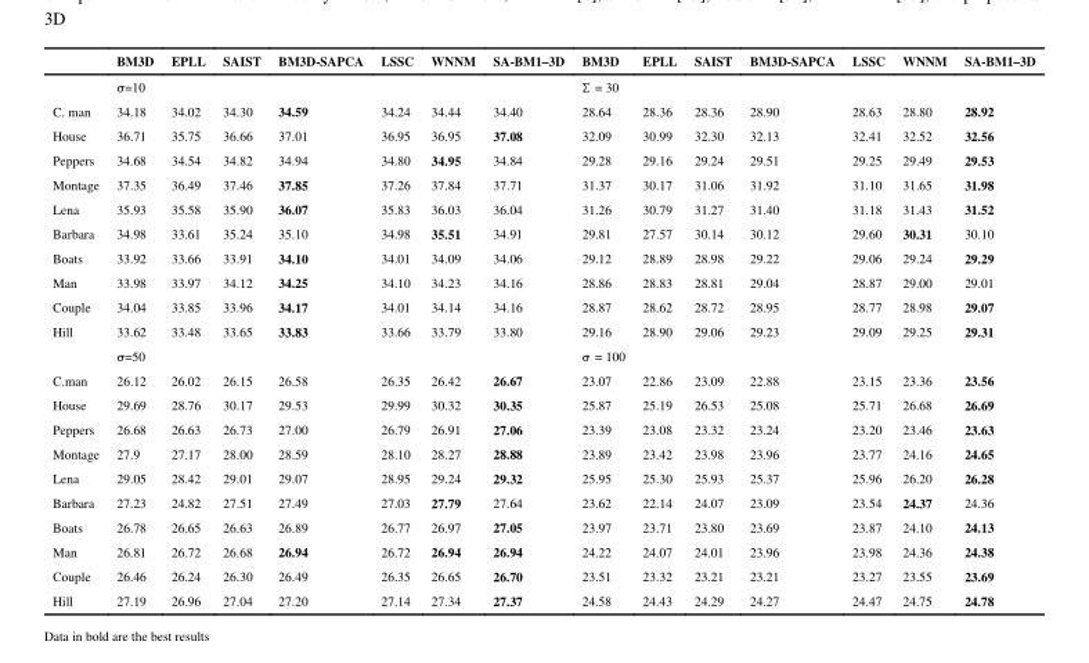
<table><thead><tr><td></td><td>BM3D</td><td>EPLL</td><td>SAIST</td><td>BM3D-SAPCA</td><td>LSSC</td><td>WNNM</td><td>SA-BM1–3D</td><td>BM3D</td><td>EPLL</td><td>SAIST</td><td>BM3D-SAPCA</td><td>LSSC</td><td>WNNM</td><td>SA-BM1–3D</td></tr></thead><tbody><tr><td></td><td>σ=10</td><td></td><td></td><td></td><td></td><td></td><td></td><td>Σ = 30</td><td></td><td></td><td></td><td></td><td></td><td></td></tr><tr><td>C. man</td><td>34.18</td><td>34.02</td><td>34.30</td><td>34.59</td><td>34.24</td><td>34.44</td><td>34.40</td><td>28.64</td><td>28.36</td><td>28.36</td><td>28.90</td><td>28.63</td><td>28.80</td><td>28.92</td></tr><tr><td>House</td><td>36.71</td><td>35.75</td><td>36.66</td><td>37.01</td><td>36.95</td><td>36.95</td><td>37.08</td><td>32.09</td><td>30.99</td><td>32.30</td><td>32.13</td><td>32.41</td><td>32.52</td><td>32.56</td></tr><tr><td>Peppers</td><td>34.68</td><td>34.54</td><td>34.82</td><td>34.94</td><td>34.80</td><td>34.95</td><td>34.84</td><td>29.28</td><td>29.16</td><td>29.24</td><td>29.51</td><td>29.25</td><td>29.49</td><td>29.53</td></tr><tr><td>Montage</td><td>37.35</td><td>36.49</td><td>37.46</td><td>37.85</td><td>37.26</td><td>37.84</td><td>37.71</td><td>31.37</td><td>30.17</td><td>31.06</td><td>31.92</td><td>31.10</td><td>31.65</td><td>31.98</td></tr><tr><td>Lena</td><td>35.93</td><td>35.58</td><td>35.90</td><td>36.07</td><td>35.83</td><td>36.03</td><td>36.04</td><td>31.26</td><td>30.79</td><td>31.27</td><td>31.40</td><td>31.18</td><td>31.43</td><td>31.52</td></tr><tr><td>Barbara</td><td>34.98</td><td>33.61</td><td>35.24</td><td>35.10</td><td>34.98</td><td>35.51</td><td>34.91</td><td>29.81</td><td>27.57</td><td>30.14</td><td>30.12</td><td>29.60</td><td>30.31</td><td>30.10</td></tr><tr><td>Boats</td><td>33.92</td><td>33.66</td><td>33.91</td><td>34.10</td><td>34.01</td><td>34.09</td><td>34.06</td><td>29.12</td><td>28.89</td><td>28.98</td><td>29.22</td><td>29.06</td><td>29.24</td><td>29.29</td></tr><tr><td>Man</td><td>33.98</td><td>33.97</td><td>34.12</td><td>34.25</td><td>34.10</td><td>34.23</td><td>34.16</td><td>28.86</td><td>28.83</td><td>28.81</td><td>29.04</td><td>28.87</td><td>29.00</td><td>29.01</td></tr><tr><td>Couple</td><td>34.04</td><td>33.85</td><td>33.96</td><td>34.17</td><td>34.01</td><td>34.14</td><td>34.16</td><td>28.87</td><td>28.62</td><td>28.72</td><td>28.95</td><td>28.77</td><td>28.98</td><td>29.07</td></tr><tr><td rowspan="2">Hill</td><td>33.62</td><td>33.48</td><td>33.65</td><td>33.83</td><td>33.66</td><td>33.79</td><td>33.80</td><td>29.16</td><td>28.90</td><td>29.06</td><td>29.23</td><td>29.09</td><td>29.25</td><td>29.31</td></tr><tr><td>σ=50</td><td></td><td></td><td></td><td></td><td></td><td></td><td>σ = 100</td><td></td><td></td><td></td><td></td><td></td><td></td></tr><tr><td>C.man</td><td>26.12</td><td>26.02</td><td>26.15</td><td>26.58</td><td>26.35</td><td>26.42</td><td>26.67</td><td>23.07</td><td>22.86</td><td>23.09</td><td>22.88</td><td>23.15</td><td>23.36</td><td>23.56</td></tr><tr><td>House</td><td>29.69</td><td>28.76</td><td>30.17</td><td>29.53</td><td>29.99</td><td>30.32</td><td>30.35</td><td>25.87</td><td>25.19</td><td>26.53</td><td>25.08</td><td>25.71</td><td>26.68</td><td>26.69</td></tr><tr><td>Peppers</td><td>26.68</td><td>26.63</td><td>26.73</td><td>27.00</td><td>26.79</td><td>26.91</td><td>27.06</td><td>23.39</td><td>23.08</td><td>23.32</td><td>23.24</td><td>23.20</td><td>23.46</td><td>23.63</td></tr><tr><td>Montage</td><td>27.9</td><td>27.17</td><td>28.00</td><td>28.59</td><td>28.10</td><td>28.27</td><td>28.88</td><td>23.89</td><td>23.42</td><td>23.98</td><td>23.96</td><td>23.77</td><td>24.16</td><td>24.65</td></tr><tr><td>Lena</td><td>29.05</td><td>28.42</td><td>29.01</td><td>29.07</td><td>28.95</td><td>29.24</td><td>29.32</td><td>25.95</td><td>25.30</td><td>25.93</td><td>25.37</td><td>25.96</td><td>26.20</td><td>26.28</td></tr><tr><td>Barbara</td><td>27.23</td><td>24.82</td><td>27.51</td><td>27.49</td><td>27.03</td><td>27.79</td><td>27.64</td><td>23.62</td><td>22.14</td><td>24.07</td><td>23.09</td><td>23.54</td><td>24.37</td><td>24.36</td></tr><tr><td>Boats</td><td>26.78</td><td>26.65</td><td>26.63</td><td>26.89</td><td>26.77</td><td>26.97</td><td>27.05</td><td>23.97</td><td>23.71</td><td>23.80</td><td>23.69</td><td>23.87</td><td>24.10</td><td>24.13</td></tr><tr><td>Man</td><td>26.81</td><td>26.72</td><td>26.68</td><td>26.94</td><td>26.72</td><td>26.94</td><td>26.94</td><td>24.22</td><td>24.07</td><td>24.01</td><td>23.96</td><td>23.98</td><td>24.36</td><td>24.38</td></tr><tr><td>Couple</td><td>26.46</td><td>26.24</td><td>26.30</td><td>26.49</td><td>26.35</td><td>26.65</td><td>26.70</td><td>23.51</td><td>23.32</td><td>23.21</td><td>23.21</td><td>23.27</td><td>23.55</td><td>23.69</td></tr><tr><td>Hill</td><td>27.19</td><td>26.96</td><td>27.04</td><td>27.20</td><td>27.14</td><td>27.34</td><td>27.37</td><td>24.58</td><td>24.43</td><td>24.29</td><td>24.27</td><td>24.47</td><td>24.75</td><td>24.78</td></tr></tbody></table>